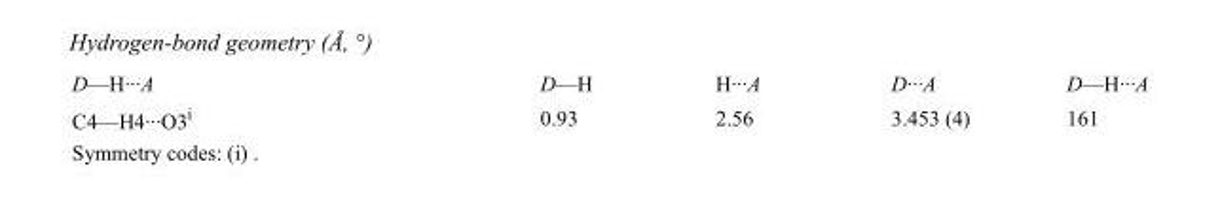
<table><tbody><tr><td>D—H···A</td><td>D—H</td><td>H···A</td><td>D···A</td><td>D—H···A</td></tr><tr><td>C4—H4···O3<sup>i</sup></td><td>0.93</td><td>2.56</td><td>3.453 (4)</td><td>161</td></tr></tbody></table>